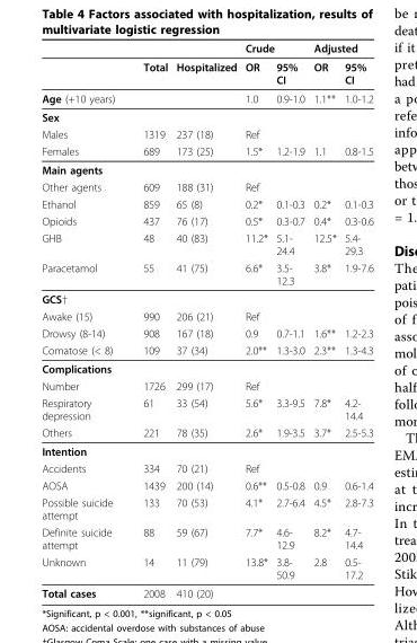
<table><thead><tr><td rowspan="2"></td><td rowspan="2">Total</td><td rowspan="2">Hospitalized</td><td colspan="2">Crude</td><td colspan="2">Adjusted</td></tr><tr><td>OR</td><td>95% CI</td><td>OR</td><td>95% CI</td></tr></thead><tbody><tr><td>Age (+10 years)</td><td></td><td></td><td>1.0</td><td>0.9-1.0</td><td>1.1**</td><td>1.0-1.2</td></tr><tr><td colspan="7">Sex</td></tr><tr><td>Males</td><td>1319</td><td>237 (18)</td><td>Ref</td><td></td><td></td><td></td></tr><tr><td>Females</td><td>689</td><td>173 (25)</td><td>1.5*</td><td>1.2-1.9</td><td>1.1</td><td>0.8-1.5</td></tr><tr><td colspan="7">Main agents</td></tr><tr><td>Other agents</td><td>609</td><td>188 (31)</td><td>Ref</td><td></td><td></td><td></td></tr><tr><td>Ethanol</td><td>859</td><td>65 (8)</td><td>0.2*</td><td>0.1-0.3</td><td>0.2*</td><td>0.1-0.3</td></tr><tr><td>Opioids</td><td>437</td><td>76 (17)</td><td>0.5*</td><td>0.3-0.7</td><td>0.4*</td><td>0.3-0.6</td></tr><tr><td>GHB</td><td>48</td><td>40 (83)</td><td>11.2*</td><td>5.1- 24.4</td><td>12.5*</td><td>5.4- 29.3</td></tr><tr><td>Paracetamol</td><td>55</td><td>41 (75)</td><td>6.6*</td><td>3.5- 12.3</td><td>3.8*</td><td>1.9-7.6</td></tr><tr><td colspan="7">GCS†</td></tr><tr><td>Awake (15)</td><td>990</td><td>206 (21)</td><td>Ref</td><td></td><td></td><td></td></tr><tr><td>Drowsy (8-14)</td><td>908</td><td>167 (18)</td><td>0.9</td><td>0.7-1.1</td><td>1.6**</td><td>1.2-2.3</td></tr><tr><td>Comatose (&lt; 8)</td><td>109</td><td>37 (34)</td><td>2.0**</td><td>1.3-3.0</td><td>2.3**</td><td>1.3-4.3</td></tr><tr><td colspan="7">Complications</td></tr><tr><td>Number</td><td>1726</td><td>299 (17)</td><td>Ref</td><td></td><td></td><td></td></tr><tr><td>Respiratory depression</td><td>61</td><td>33 (54)</td><td>5.6*</td><td>3.3-9.5</td><td>7.8*</td><td>4.2- 14.4</td></tr><tr><td>Others</td><td>221</td><td>78 (35)</td><td>2.6*</td><td>1.9-3.5</td><td>3.7*</td><td>2.5-5.3</td></tr><tr><td colspan="7">Intention</td></tr><tr><td>Accidents</td><td>334</td><td>70 (21)</td><td>Ref</td><td></td><td></td><td></td></tr><tr><td>AOSA</td><td>1439</td><td>200 (14)</td><td>0.6**</td><td>0.5-0.8</td><td>0.9</td><td>0.6-1.4</td></tr><tr><td>Possible suicide attempt</td><td>133</td><td>70 (53)</td><td>4.1*</td><td>2.7-6.4</td><td>4.5*</td><td>2.8-7.3</td></tr><tr><td>Definite suicide attempt</td><td>88</td><td>59 (67)</td><td>7.7*</td><td>4.6- 12.9</td><td>8.2*</td><td>4.7- 14.4</td></tr><tr><td>Unknown</td><td>14</td><td>11 (79)</td><td>13.8*</td><td>3.8- 50.9</td><td>2.8</td><td>0.5- 17.2</td></tr><tr><td>Total cases</td><td>2008</td><td>410 (20)</td><td></td><td></td><td></td><td></td></tr></tbody></table>